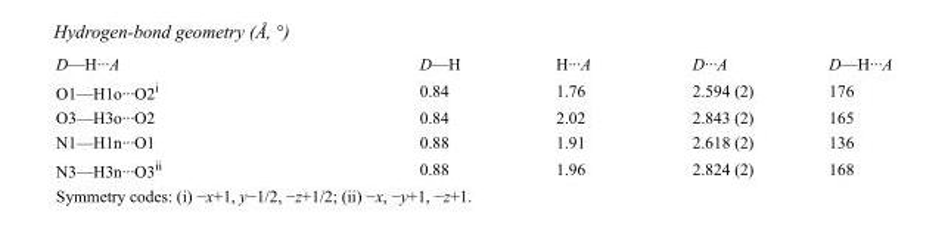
<table><tbody><tr><td>D—H···A</td><td>D—H</td><td>H···A</td><td>D···A</td><td>D—H···A</td></tr><tr><td>O1—H1o···O2<sup>i</sup></td><td>0.84</td><td>1.76</td><td>2.594 (2)</td><td>176</td></tr><tr><td>O3—H3o···O2</td><td>0.84</td><td>2.02</td><td>2.843 (2)</td><td>165</td></tr><tr><td>N1—H1n···O1</td><td>0.88</td><td>1.91</td><td>2.618 (2)</td><td>136</td></tr><tr><td>N3—H3n···O3<sup>ii</sup></td><td>0.88</td><td>1.96</td><td>2.824 (2)</td><td>168</td></tr></tbody></table>